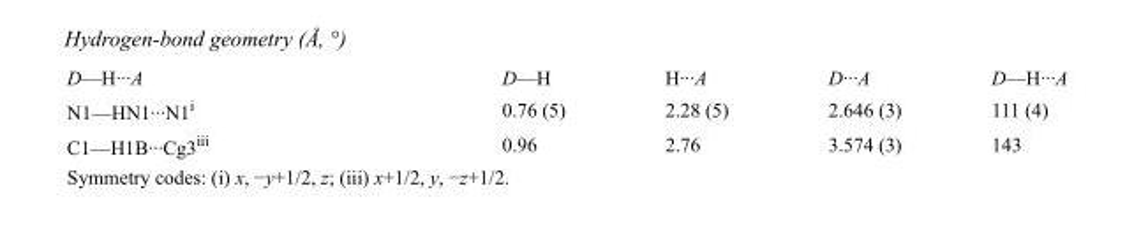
<table><tbody><tr><td>D—H···A</td><td>D—H</td><td>H···A</td><td>D···A</td><td>D—H···A</td></tr><tr><td>N1—HN1···N1<sup>i</sup></td><td>0.76 (5)</td><td>2.28 (5)</td><td>2.646 (3)</td><td>111 (4)</td></tr><tr><td>C1—H1B···Cg3<sup>iii</sup></td><td>0.96</td><td>2.76</td><td>3.574 (3)</td><td>143</td></tr></tbody></table>